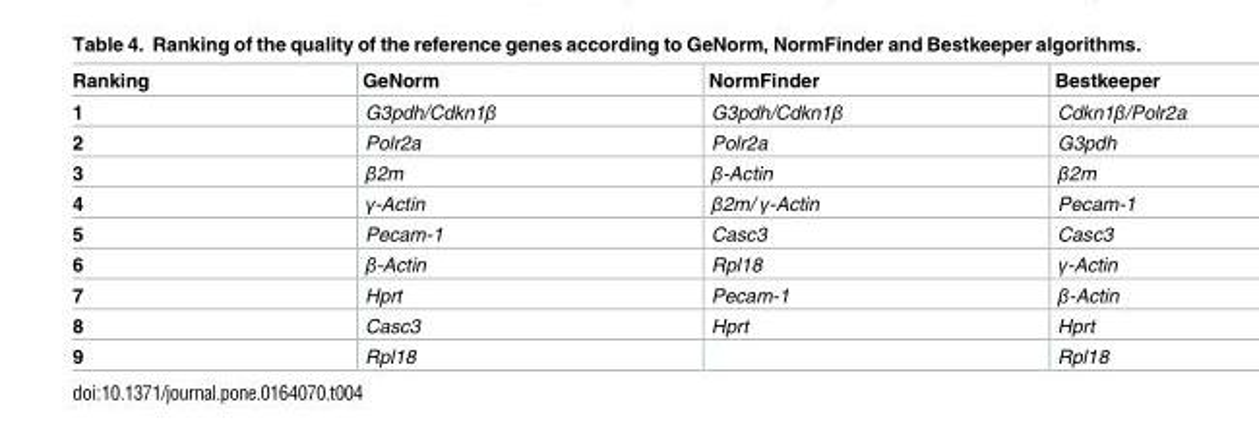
<table><thead><tr><td>Ranking</td><td>GeNorm</td><td>NormFinder</td><td>Bestkeeper</td></tr></thead><tbody><tr><td>1</td><td>G3pdh/Cdkn1β</td><td>G3pdh/Cdkn1β</td><td>Cdkn1β/Polr2a</td></tr><tr><td>2</td><td>Polr2a</td><td>Polr2a</td><td>G3pdh</td></tr><tr><td>3</td><td>β2m</td><td>β-Actin</td><td>β2m</td></tr><tr><td>4</td><td>γ-Actin</td><td>β2m/ γ-Actin</td><td>Pecam-1</td></tr><tr><td>5</td><td>Pecam-1</td><td>Casc3</td><td>Casc3</td></tr><tr><td>6</td><td>β-Actin</td><td>Rpl18</td><td>γ-Actin</td></tr><tr><td>7</td><td>Hprt</td><td>Pecam-1</td><td>β-Actin</td></tr><tr><td>8</td><td>Casc3</td><td>Hprt</td><td>Hprt</td></tr><tr><td>9</td><td>Rpl18</td><td></td><td>Rpl18</td></tr></tbody></table>